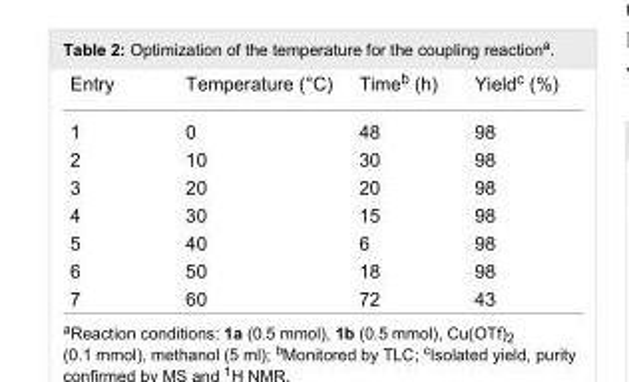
<table><tbody><tr><td>Entry</td><td>Temperature (°C)</td><td>Time<sup>b</sup> (h)</td><td>Yield<sup>c</sup> (%)</td></tr><tr><td>1</td><td>0</td><td>48</td><td>98</td></tr><tr><td>2</td><td>10</td><td>30</td><td>98</td></tr><tr><td>3</td><td>20</td><td>20</td><td>98</td></tr><tr><td>4</td><td>30</td><td>15</td><td>98</td></tr><tr><td>5</td><td>40</td><td>6</td><td>98</td></tr><tr><td>6</td><td>50</td><td>18</td><td>98</td></tr><tr><td>7</td><td>60</td><td>72</td><td>43</td></tr></tbody></table>